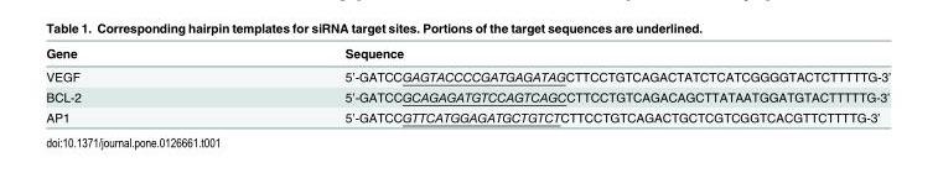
<table><thead><tr><td>Gene</td><td>Sequence</td></tr></thead><tbody><tr><td>VEGF</td><td>5’-GATCCGAGTACCCCGATGAGATAGCTTCCTGTCAGACTATCTCATCGGGGTACTCTTTTTG-3’</td></tr><tr><td>BCL-2</td><td>5’-GATCCGCAGAGATGTCCAGTCAGCCTTCCTGTCAGACAGCTTATAATGGATGTACTTTTTG-3’</td></tr><tr><td>AP1</td><td>5’-GATCCGTTCATGGAGATGCTGTCTCTTCCTGTCAGACTGCTCGTCGGTCACGTTCTTTTG-3’</td></tr></tbody></table>